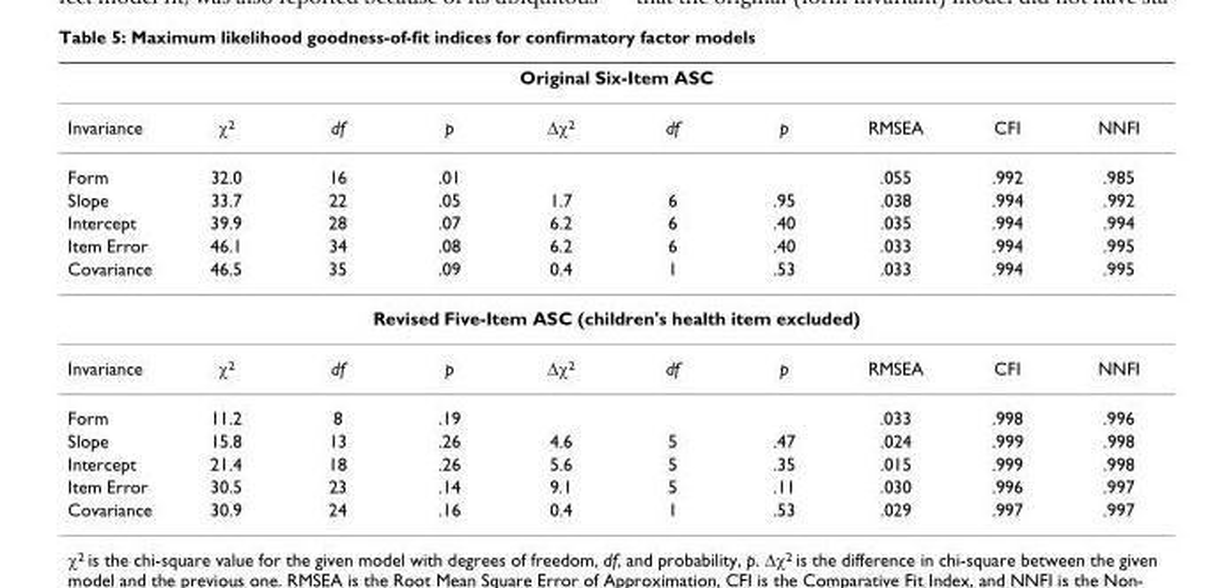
<table><thead><tr><td colspan="10">Original Six-Item ASC</td></tr><tr><td>Invariance</td><td>χ<sup>2</sup></td><td>df</td><td>p</td><td>∆χ2</td><td>df</td><td>p</td><td>RMSEA</td><td>CFI</td><td>NNFI</td></tr></thead><tbody><tr><td>Form</td><td>32.0</td><td>16</td><td>.01</td><td></td><td></td><td></td><td>.055</td><td>.992</td><td>.985</td></tr><tr><td>Slope</td><td>33.7</td><td>22</td><td>.05</td><td>1.7</td><td>6</td><td>.95</td><td>.038</td><td>.994</td><td>.992</td></tr><tr><td>Intercept</td><td>39.9</td><td>28</td><td>.07</td><td>6.2</td><td>6</td><td>.40</td><td>.035</td><td>.994</td><td>.994</td></tr><tr><td>Item Error</td><td>46.1</td><td>34</td><td>.08</td><td>6.2</td><td>6</td><td>.40</td><td>.033</td><td>.994</td><td>.995</td></tr><tr><td>Covariance</td><td>46.5</td><td>35</td><td>.09</td><td>0.4</td><td>1</td><td>.53</td><td>.033</td><td>.994</td><td>.995</td></tr><tr><td colspan="10">Revised Five-Item ASC (children&#x27;s health item excluded)</td></tr><tr><td>Invariance</td><td>χ<sup>2</sup></td><td>df</td><td>p</td><td>∆χ2</td><td>df</td><td>p</td><td>RMSEA</td><td>CFI</td><td>NNFI</td></tr><tr><td>Form</td><td>11.2</td><td>8</td><td>.19</td><td></td><td></td><td></td><td>.033</td><td>.998</td><td>.996</td></tr><tr><td>Slope</td><td>15.8</td><td>13</td><td>.26</td><td>4.6</td><td>5</td><td>.47</td><td>.024</td><td>.999</td><td>.998</td></tr><tr><td>Intercept</td><td>21.4</td><td>18</td><td>.26</td><td>5.6</td><td>5</td><td>.35</td><td>.015</td><td>.999</td><td>.998</td></tr><tr><td>Item Error</td><td>30.5</td><td>23</td><td>.14</td><td>9.1</td><td>5</td><td>.11</td><td>.030</td><td>.996</td><td>.997</td></tr><tr><td>Covariance</td><td>30.9</td><td>24</td><td>.16</td><td>0.4</td><td>1</td><td>.53</td><td>.029</td><td>.997</td><td>.997</td></tr></tbody></table>